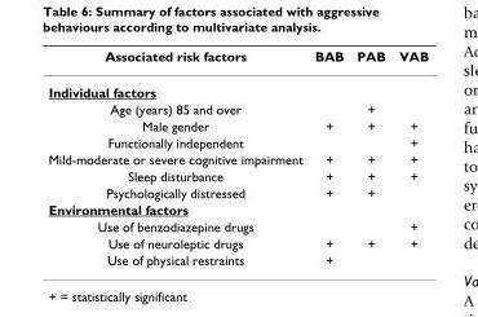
<table><thead><tr><td>Associated risk factors</td><td>BAB</td><td>PAB</td><td>VAB</td></tr></thead><tbody><tr><td colspan="4">Individual factors</td></tr><tr><td>Age (years) 85 and over</td><td></td><td>+</td><td></td></tr><tr><td>Male gender</td><td>+</td><td>+</td><td>+</td></tr><tr><td>Functionally independent</td><td></td><td></td><td>+</td></tr><tr><td>Mild-moderate or severe cognitive impairment</td><td>+</td><td>+</td><td>+</td></tr><tr><td>Sleep disturbance</td><td>+</td><td>+</td><td>+</td></tr><tr><td>Psychologically distressed</td><td>+</td><td>+</td><td></td></tr><tr><td colspan="4">Environmental factors</td></tr><tr><td>Use of benzodiazepine drugs</td><td></td><td></td><td>+</td></tr><tr><td>Use of neuroleptic drugs</td><td>+</td><td>+</td><td>+</td></tr><tr><td>Use of physical restraints</td><td>+</td><td></td><td></td></tr></tbody></table>